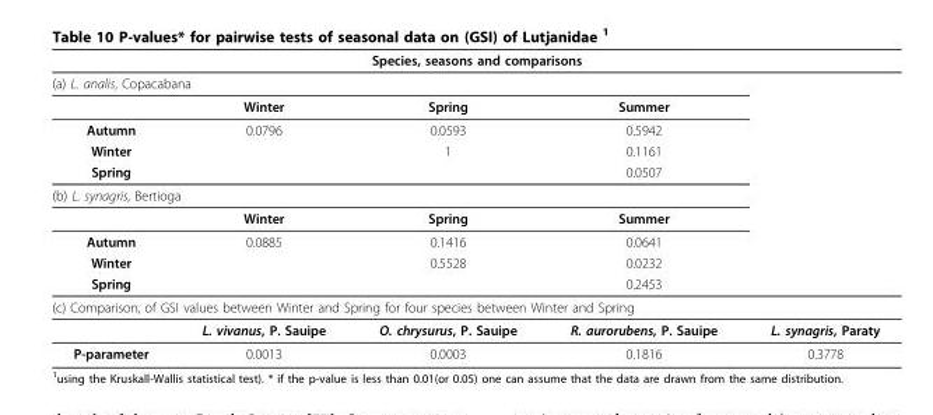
<table><thead><tr><td rowspan="2" colspan="5">Species, seasons and comparisons (a) L. analis, Copacabana</td></tr><tr></tr><tr><td></td><td>Winter</td><td>Spring</td><td>Summer</td><td></td></tr></thead><tbody><tr><td>Autumn</td><td>0.0796</td><td>0.0593</td><td>0.5942</td><td></td></tr><tr><td>Winter</td><td></td><td>1</td><td>0.1161</td><td></td></tr><tr><td>Spring</td><td></td><td></td><td>0.0507</td><td></td></tr><tr><td colspan="5">(b) L. synagris, Bertioga</td></tr><tr><td></td><td>Winter</td><td>Spring</td><td>Summer</td><td></td></tr><tr><td>Autumn</td><td>0.0885</td><td>0.1416</td><td>0.0641</td><td></td></tr><tr><td>Winter</td><td></td><td>0.5528</td><td>0.0232</td><td></td></tr><tr><td>Spring</td><td></td><td></td><td>0.2453</td><td></td></tr><tr><td colspan="5">(c) Comparison, of GSI values between Winter and Spring for four species between Winter and Spring</td></tr><tr><td></td><td>L. vivanus, P. Sauipe</td><td>O. chrysurus, P. Sauipe</td><td>R. aurorubens, P. Sauipe</td><td>L. synagris, Paraty</td></tr><tr><td>P-parameter</td><td>0.0013</td><td>0.0003</td><td>0.1816</td><td>0.3778</td></tr></tbody></table>